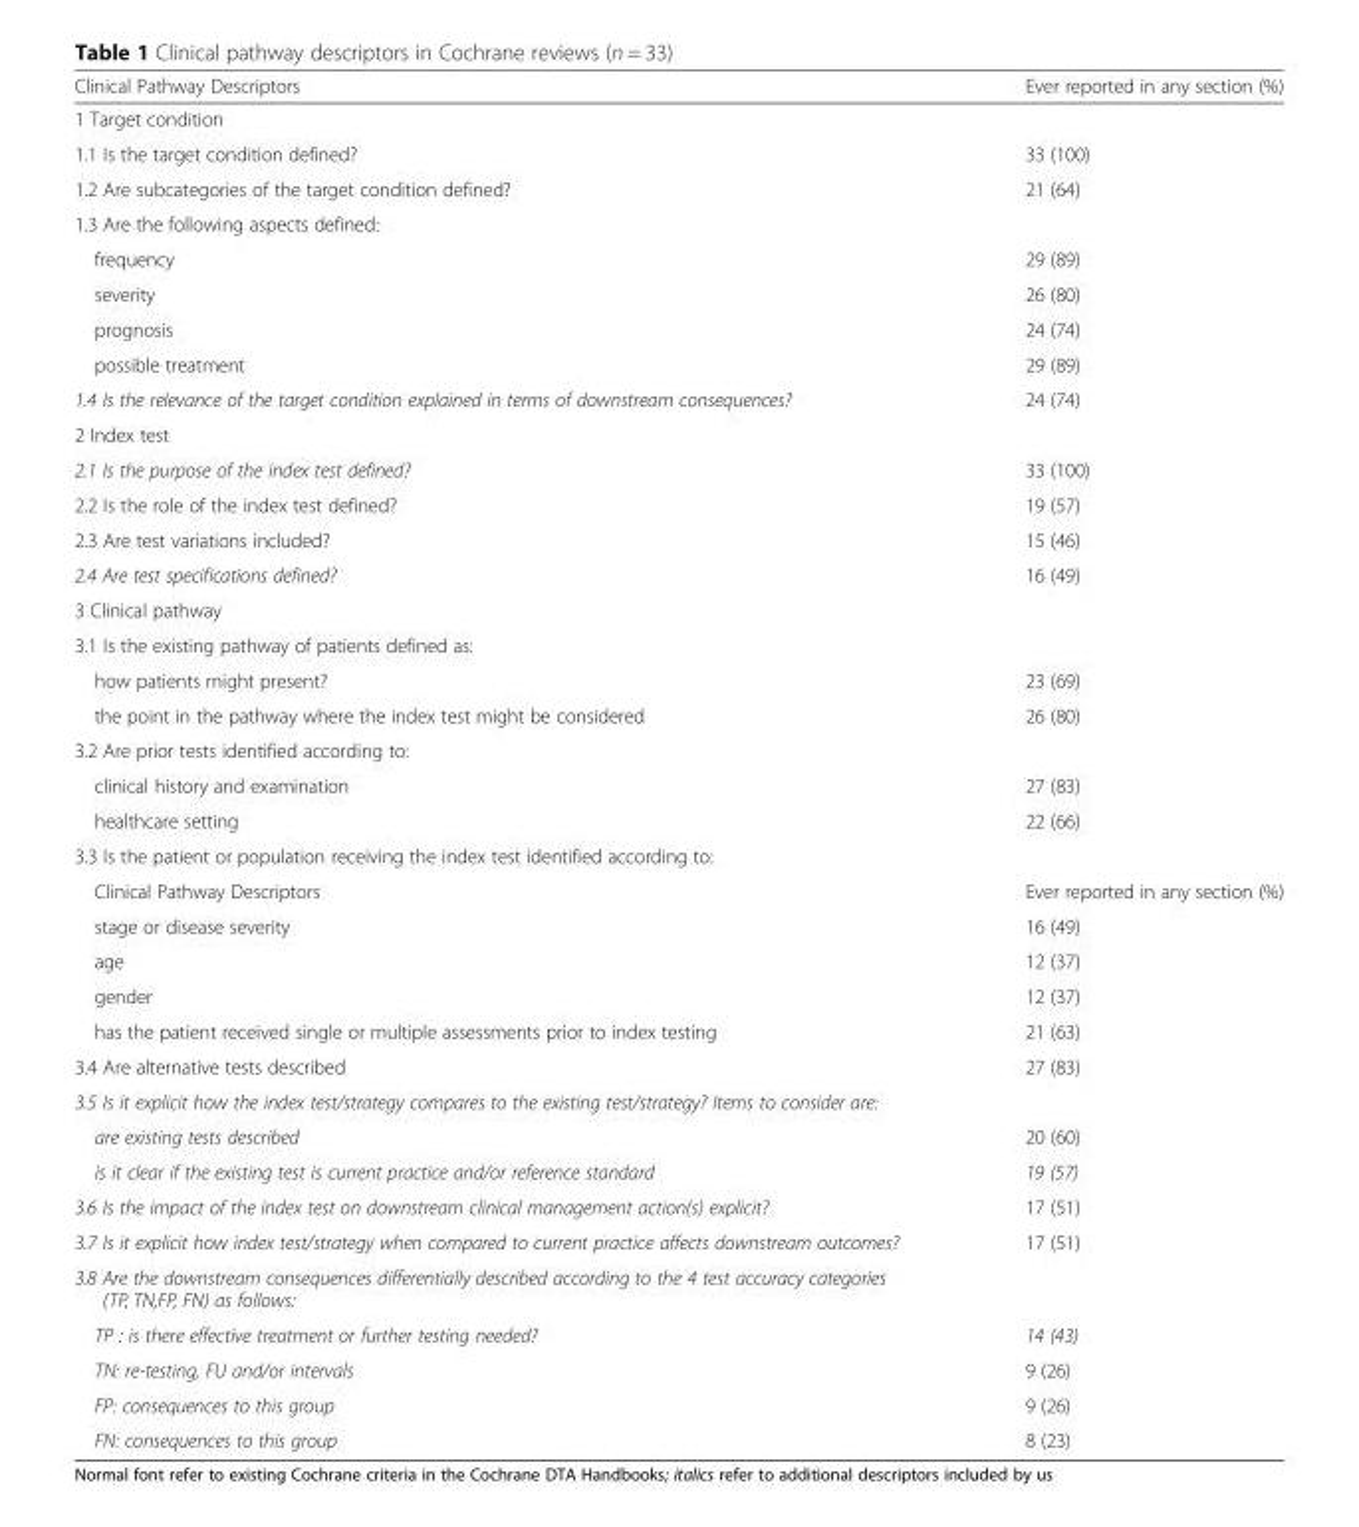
<table><thead><tr><td>Clinical Pathway Descriptors</td><td>Ever reported in any section (%)</td></tr></thead><tbody><tr><td colspan="2">1 Target condition</td></tr><tr><td>1.1 Is the target condition defined?</td><td>33 (100)</td></tr><tr><td>1.2 Are subcategories of the target condition defined?</td><td>21 (64)</td></tr><tr><td colspan="2">1.3 Are the following aspects defined:</td></tr><tr><td>frequency</td><td>29 (89)</td></tr><tr><td>severity</td><td>26 (80)</td></tr><tr><td>prognosis</td><td>24 (74)</td></tr><tr><td>possible treatment</td><td>29 (89)</td></tr><tr><td>1.4 Is the relevance of the target condition explained in terms of downstream consequences?</td><td>24 (74)</td></tr><tr><td colspan="2">2 Index test</td></tr><tr><td>2.1 Is the purpose of the index test defined?</td><td>33 (100)</td></tr><tr><td>2.2 Is the role of the index test defined?</td><td>19 (57)</td></tr><tr><td>2.3 Are test variations included?</td><td>15 (46)</td></tr><tr><td>2.4 Are test specifications defined?</td><td>16 (49)</td></tr><tr><td colspan="2">3 Clinical pathway</td></tr><tr><td colspan="2">3.1 Is the existing pathway of patients defined as:</td></tr><tr><td>how patients might present?</td><td>23 (69)</td></tr><tr><td>the point in the pathway where the index test might be considered</td><td>26 (80)</td></tr><tr><td colspan="2">3.2 Are prior tests identified according to:</td></tr><tr><td>clinical history and examination</td><td>27 (83)</td></tr><tr><td>healthcare setting</td><td>22 (66)</td></tr><tr><td colspan="2">3.3 Is the patient or population receiving the index test identified according to:</td></tr><tr><td>Clinical Pathway Descriptors</td><td>Ever reported in any section (%)</td></tr><tr><td>stage or disease severity</td><td>16 (49)</td></tr><tr><td>age</td><td>12 (37)</td></tr><tr><td>gender</td><td>12 (37)</td></tr><tr><td>has the patient received single or multiple assessments prior to index testing</td><td>21 (63)</td></tr><tr><td>3.4 Are alternative tests described</td><td>27 (83)</td></tr><tr><td colspan="2">3.5 Is it explicit how the index test/strategy compares to the existing test/strategy? Items to consider are:</td></tr><tr><td>are existing tests described</td><td>20 (60)</td></tr><tr><td>is it clear if the existing test is current practice and/or reference standard</td><td>19 (57)</td></tr><tr><td>3.6 Is the impact of the index test on downstream clinical management action(s) explicit?</td><td>17 (51)</td></tr><tr><td>3.7 Is it explicit how index test/strategy when compared to current practice affects downstream outcomes?</td><td>17 (51)</td></tr><tr><td colspan="2">3.8 Are the downstream consequences differentially described according to the 4 test accuracy categories (TP, TN,FP, FN) as follows:</td></tr><tr><td>TP : is there effective treatment or further testing needed?</td><td>14 (43)</td></tr><tr><td>TN: re-testing, FU and/or intervals</td><td>9 (26)</td></tr><tr><td>FP: consequences to this group</td><td>9 (26)</td></tr><tr><td>FN: consequences to this group</td><td>8 (23)</td></tr></tbody></table>